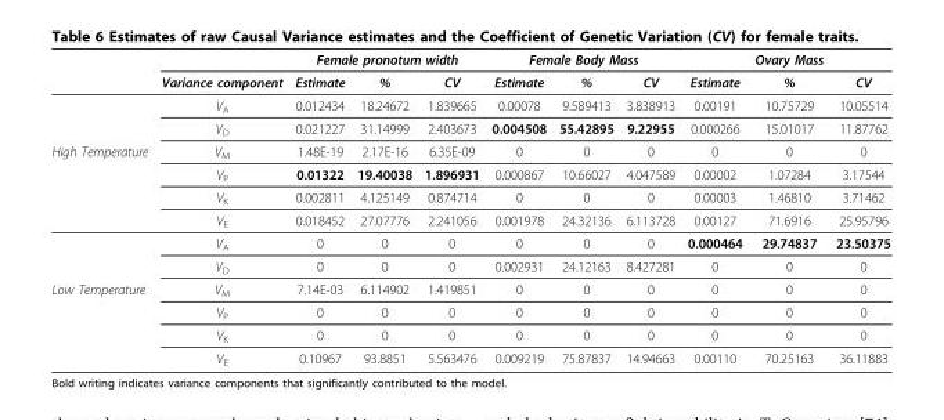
<table><thead><tr><td rowspan="2"></td><td rowspan="2">Variance component</td><td colspan="3">Female pronotum width</td><td colspan="3">Female Body Mass</td><td rowspan="2">Estimate</td><td rowspan="2">Ovary Mass %</td><td rowspan="2">CV</td></tr><tr><td>Estimate</td><td>%</td><td>CV</td><td>Estimate</td><td>%</td><td>CV</td></tr></thead><tbody><tr><td></td><td>V<sub>A</sub></td><td>0.012434</td><td>18.24672</td><td>1.839665</td><td>0.00078</td><td>9.589413</td><td>3.838913</td><td>0.00191</td><td>10.75729</td><td>10.05514</td></tr><tr><td></td><td>V<sub>D</sub></td><td>0.021227</td><td>31.14999</td><td>2.403673</td><td>0.004508</td><td>55.42895</td><td>9.22955</td><td>0.000266</td><td>15.01017</td><td>11.87762</td></tr><tr><td rowspan="6">High Temperature</td><td>V<sub>M</sub></td><td>1.48E-19</td><td>2.17E-16</td><td>6.35E-09</td><td>0</td><td>0</td><td>0</td><td>0</td><td>0</td><td>0</td></tr><tr><td>V<sub>P</sub></td><td>0.01322</td><td>19.40038</td><td>1.896931</td><td>0.000867</td><td>10.66027</td><td>4.047589</td><td>0.00002</td><td>1.07284</td><td>3.17544</td></tr><tr><td>V<sub>K</sub></td><td>0.002811</td><td>4.125149</td><td>0.874714</td><td>0</td><td>0</td><td>0</td><td>0.00003</td><td>1.46810</td><td>3.71462</td></tr><tr><td>V<sub>E</sub></td><td>0.018452</td><td>27.07776</td><td>2.241056</td><td>0.001978</td><td>24.32136</td><td>6.113728</td><td>0.00127</td><td>71.6916</td><td>25.95796</td></tr><tr><td>V<sub>A</sub></td><td>0</td><td>0</td><td>0</td><td>0</td><td>0</td><td>0</td><td>0.000464</td><td>29.74837</td><td>23.50375</td></tr><tr><td>V<sub>D</sub></td><td>0</td><td>0</td><td>0</td><td>0.002931</td><td>24.12163</td><td>8.427281</td><td>0</td><td>0</td><td>0</td></tr><tr><td rowspan="4">Low Temperature</td><td>V<sub>M</sub></td><td>7.14E-03</td><td>6.114902</td><td>1.419851</td><td>0</td><td>0</td><td>0</td><td>0</td><td>0</td><td>0</td></tr><tr><td>V<sub>P</sub></td><td>0</td><td>0</td><td>0</td><td>0</td><td>0</td><td>0</td><td>0</td><td>0</td><td>0</td></tr><tr><td>V<sub>K</sub></td><td>0</td><td>0</td><td>0</td><td>0</td><td>0</td><td>0</td><td>0</td><td>0</td><td>0</td></tr><tr><td>V<sub>E</sub></td><td>0.10967</td><td>93.8851</td><td>5.563476</td><td>0.009219</td><td>75.87837</td><td>14.94663</td><td>0.00110</td><td>70.25163</td><td>36.11883</td></tr></tbody></table>